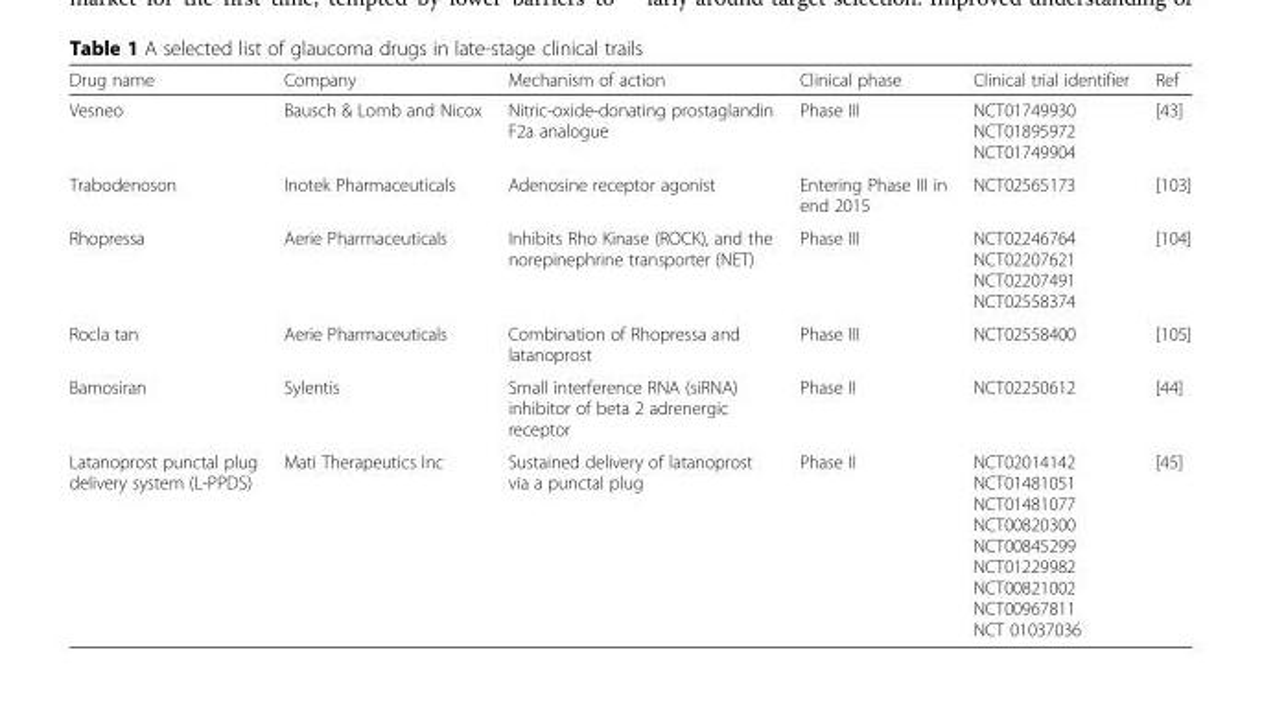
<table><thead><tr><td>Drug name</td><td>Company</td><td>Mechanism of action</td><td>Clinical phase</td><td>Clinical trial identifier</td><td>Ref</td></tr></thead><tbody><tr><td>Vesneo</td><td>Bausch &amp; Lomb and Nicox</td><td>Nitric-oxide-donating prostaglandin F2a analogue</td><td>Phase III</td><td>NCT01749930 NCT01895972 NCT01749904</td><td>[43]</td></tr><tr><td>Trabodenoson</td><td>Inotek Pharmaceuticals</td><td>Adenosine receptor agonist</td><td>Entering Phase III in end 2015</td><td>NCT02565173</td><td>[103]</td></tr><tr><td>Rhopressa</td><td>Aerie Pharmaceuticals</td><td>Inhibits Rho Kinase (ROCK), and the norepinephrine transporter (NET)</td><td>Phase III</td><td>NCT02246764 NCT02207621 NCT02207491 NCT02558374</td><td>[104]</td></tr><tr><td>Rocla tan</td><td>Aerie Pharmaceuticals</td><td>Combination of Rhopressa and latanoprost</td><td>Phase III</td><td>NCT02558400</td><td>[105]</td></tr><tr><td>Bamosiran</td><td>Sylentis</td><td>Small interference RNA (siRNA) inhibitor of beta 2 adrenergic receptor</td><td>Phase II</td><td>NCT02250612</td><td>[44]</td></tr><tr><td>Latanoprost punctal plug delivery system (L-PPDS)</td><td>Mati Therapeutics Inc</td><td>Sustained delivery of latanoprost via a punctal plug</td><td>Phase II</td><td>NCT02014142 NCT01481051 NCT01481077 NCT00820300 NCT00845299 NCT01229982 NCT00821002 NCT00967811 NCT 01037036</td><td>[45]</td></tr></tbody></table>